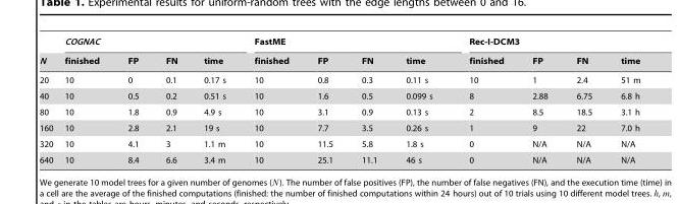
<table><thead><tr><td rowspan="2">N</td><td colspan="4">COGNAC</td><td colspan="4">FastME</td><td colspan="4">Rec-I-DCM3</td></tr><tr><td>finished</td><td>FP</td><td>FN</td><td>time</td><td>finished</td><td>FP</td><td>FN</td><td>time</td><td>finished</td><td>FP</td><td>FN</td><td>time</td></tr></thead><tbody><tr><td>20</td><td>10</td><td>0</td><td>0.1</td><td>0.17 s</td><td>10</td><td>0.8</td><td>0.3</td><td>0.11 s</td><td>10</td><td>1</td><td>2.4</td><td>51 m</td></tr><tr><td>40</td><td>10</td><td>0.5</td><td>0.2</td><td>0.51 s</td><td>10</td><td>1.6</td><td>0.5</td><td>0.099 s</td><td>8</td><td>2.88</td><td>6.75</td><td>6.8 h</td></tr><tr><td>80</td><td>10</td><td>1.8</td><td>0.9</td><td>4.9 s</td><td>10</td><td>3.1</td><td>0.9</td><td>0.13 s</td><td>2</td><td>8.5</td><td>18.5</td><td>3.1 h</td></tr><tr><td>160</td><td>10</td><td>2.8</td><td>2.1</td><td>19 s</td><td>10</td><td>7.7</td><td>3.5</td><td>0.26 s</td><td>1</td><td>9</td><td>22</td><td>7.0 h</td></tr><tr><td>320</td><td>10</td><td>4.1</td><td>3</td><td>1.1 m</td><td>10</td><td>11.5</td><td>5.8</td><td>1.8 s</td><td>0</td><td>N/A</td><td>N/A</td><td>N/A</td></tr><tr><td>640</td><td>10</td><td>8.4</td><td>6.6</td><td>3.4 m</td><td>10</td><td>25.1</td><td>11.1</td><td>46 s</td><td>0</td><td>N/A</td><td>N/A</td><td>N/A</td></tr></tbody></table>